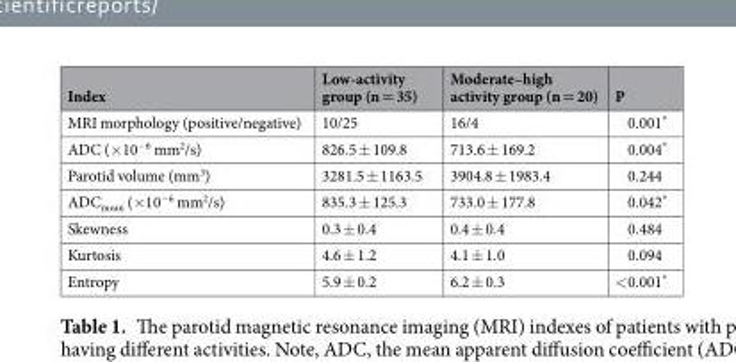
<table><thead><tr><td>Index</td><td>Low-activity group (n = 35)</td><td>Moderate–high activity group (n = 20)</td><td>P</td></tr></thead><tbody><tr><td>MRI morphology (positive/negative)</td><td>10/25</td><td>16/4</td><td>0.001*</td></tr><tr><td>ADC (×10<sup>−6</sup> mm<sup>2</sup>/s)</td><td>826.5 ± 109.8</td><td>713.6 ± 169.2</td><td>0.004*</td></tr><tr><td>Parotid volume (mm<sup>3</sup>)</td><td>3281.5 ± 1163.5</td><td>3904.8 ± 1983.4</td><td>0.244</td></tr><tr><td>ADC<sub>mean</sub> (×10<sup>−6</sup> mm<sup>2</sup>/s)</td><td>835.3 ± 125.3</td><td>733.0 ± 177.8</td><td>0.042*</td></tr><tr><td>Skewness</td><td>0.3 ± 0.4</td><td>0.4 ± 0.4</td><td>0.484</td></tr><tr><td>Kurtosis</td><td>4.6 ± 1.2</td><td>4.1 ± 1.0</td><td>0.094</td></tr><tr><td>Entropy</td><td>5.9 ± 0.2</td><td>6.2 ± 0.3</td><td>&lt;0.001*</td></tr></tbody></table>